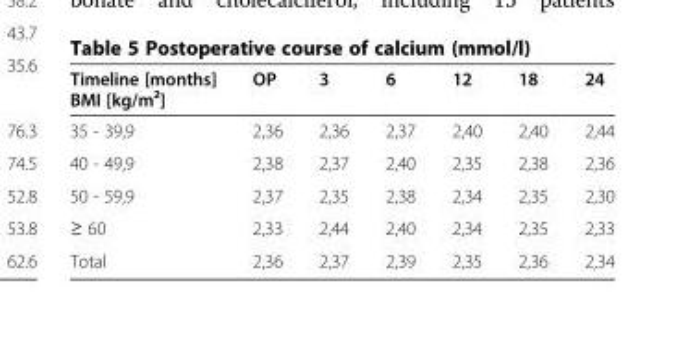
<table><thead><tr><td>Timeline [months] BMI [kg/m²]</td><td>OP</td><td>3</td><td>6</td><td>12</td><td>18</td><td>24</td></tr></thead><tbody><tr><td>35 - 39,9</td><td>2,36</td><td>2,36</td><td>2,37</td><td>2,40</td><td>2,40</td><td>2,44</td></tr><tr><td>40 - 49,9</td><td>2,38</td><td>2,37</td><td>2,40</td><td>2,35</td><td>2,38</td><td>2,36</td></tr><tr><td>50 - 59,9</td><td>2,37</td><td>2,35</td><td>2,38</td><td>2,34</td><td>2,35</td><td>2,30</td></tr><tr><td>≥ 60</td><td>2,33</td><td>2,44</td><td>2,40</td><td>2,34</td><td>2,35</td><td>2,33</td></tr><tr><td>Total</td><td>2,36</td><td>2,37</td><td>2,39</td><td>2,35</td><td>2,36</td><td>2,34</td></tr></tbody></table>